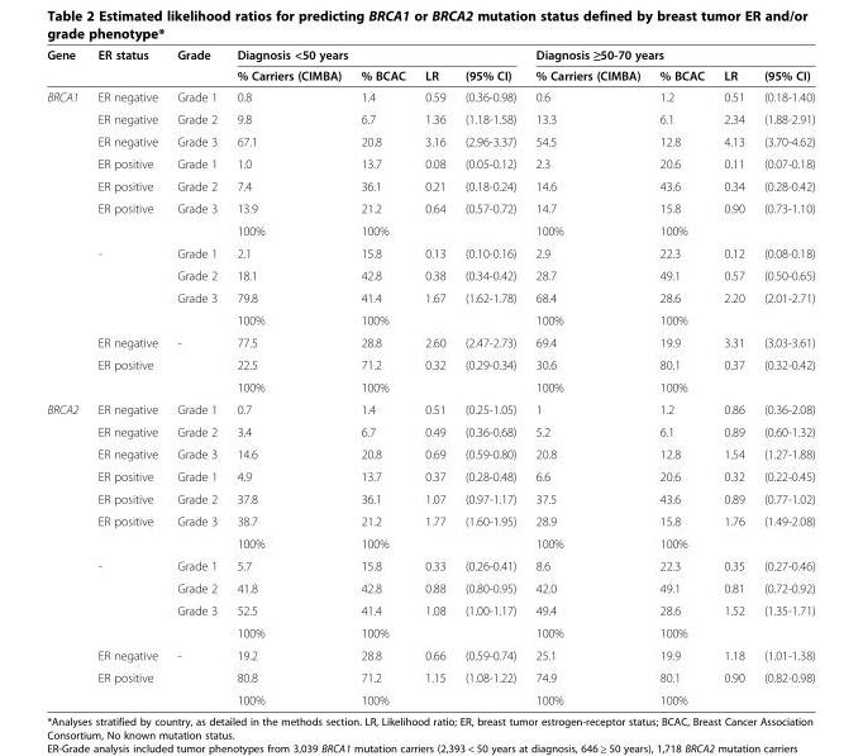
<table><thead><tr><td rowspan="2">Gene</td><td rowspan="2">ER status</td><td rowspan="2">Grade</td><td colspan="4">Diagnosis &lt;50 years</td><td colspan="4">Diagnosis ≥50-70 years</td></tr><tr><td>% Carriers (CIMBA)</td><td>% BCAC</td><td>LR</td><td>(95% CI)</td><td>% Carriers (CIMBA)</td><td>% BCAC</td><td>LR</td><td>(95% CI)</td></tr></thead><tbody><tr><td rowspan="14">BRCA1</td><td>ER negative</td><td>Grade 1</td><td>0.8</td><td>1.4</td><td>0.59</td><td>(0.36-0.98)</td><td>0.6</td><td>1.2</td><td>0.51</td><td>(0.18-1.40)</td></tr><tr><td>ER negative</td><td>Grade 2</td><td>9.8</td><td>6.7</td><td>1.36</td><td>(1.18-1.58)</td><td>13.3</td><td>6.1</td><td>2.34</td><td>(1.88-2.91)</td></tr><tr><td>ER negative</td><td>Grade 3</td><td>67.1</td><td>20.8</td><td>3.16</td><td>(2.96-3.37)</td><td>54.5</td><td>12.8</td><td>4.13</td><td>(3.70-4.62)</td></tr><tr><td>ER positive</td><td>Grade 1</td><td>1.0</td><td>13.7</td><td>0.08</td><td>(0.05-0.12)</td><td>2.3</td><td>20.6</td><td>0.11</td><td>(0.07-0.18)</td></tr><tr><td>ER positive</td><td>Grade 2</td><td>7.4</td><td>36.1</td><td>0.21</td><td>(0.18-0.24)</td><td>14.6</td><td>43.6</td><td>0.34</td><td>(0.28-0.42)</td></tr><tr><td>ER positive</td><td>Grade 3</td><td>13.9</td><td>21.2</td><td>0.64</td><td>(0.57-0.72)</td><td>14.7</td><td>15.8</td><td>0.90</td><td>(0.73-1.10)</td></tr><tr><td></td><td></td><td>100%</td><td>100%</td><td></td><td></td><td>100%</td><td>100%</td><td></td><td></td></tr><tr><td rowspan="3">-</td><td>Grade 1</td><td>2.1</td><td>15.8</td><td>0.13</td><td>(0.10-0.16)</td><td>2.9</td><td>22.3</td><td>0.12</td><td>(0.08-0.18)</td></tr><tr><td>Grade 2</td><td>18.1</td><td>42.8</td><td>0.38</td><td>(0.34-0.42)</td><td>28.7</td><td>49.1</td><td>0.57</td><td>(0.50-0.65)</td></tr><tr><td>Grade 3</td><td>79.8</td><td>41.4</td><td>1.67</td><td>(1.62-1.78)</td><td>68.4</td><td>28.6</td><td>2.20</td><td>(2.01-2.71)</td></tr><tr><td></td><td></td><td>100%</td><td>100%</td><td></td><td></td><td>100%</td><td>100%</td><td></td><td></td></tr><tr><td>ER negative</td><td rowspan="2">-</td><td>77.5</td><td>28.8</td><td>2.60</td><td>(2.47-2.73)</td><td>69.4</td><td>19.9</td><td>3.31</td><td>(3.03-3.61)</td></tr><tr><td>ER positive</td><td>22.5</td><td>71.2</td><td>0.32</td><td>(0.29-0.34)</td><td>30.6</td><td>80.1</td><td>0.37</td><td>(0.32-0.42)</td></tr><tr><td></td><td></td><td>100%</td><td>100%</td><td></td><td></td><td>100%</td><td>100%</td><td></td><td></td></tr><tr><td rowspan="14">BRCA2</td><td>ER negative</td><td>Grade 1</td><td>0.7</td><td>1.4</td><td>0.51</td><td>(0.25-1.05)</td><td>1</td><td>1.2</td><td>0.86</td><td>(0.36-2.08)</td></tr><tr><td>ER negative</td><td>Grade 2</td><td>3.4</td><td>6.7</td><td>0.49</td><td>(0.36-0.68)</td><td>5.2</td><td>6.1</td><td>0.89</td><td>(0.60-1.32)</td></tr><tr><td>ER negative</td><td>Grade 3</td><td>14.6</td><td>20.8</td><td>0.69</td><td>(0.59-0.80)</td><td>20.8</td><td>12.8</td><td>1.54</td><td>(1.27-1.88)</td></tr><tr><td>ER positive</td><td>Grade 1</td><td>4.9</td><td>13.7</td><td>0.37</td><td>(0.28-0.48)</td><td>6.6</td><td>20.6</td><td>0.32</td><td>(0.22-0.45)</td></tr><tr><td>ER positive</td><td>Grade 2</td><td>37.8</td><td>36.1</td><td>1.07</td><td>(0.97-1.17)</td><td>37.5</td><td>43.6</td><td>0.89</td><td>(0.77-1.02)</td></tr><tr><td>ER positive</td><td>Grade 3</td><td>38.7</td><td>21.2</td><td>1.77</td><td>(1.60-1.95)</td><td>28.9</td><td>15.8</td><td>1.76</td><td>(1.49-2.08)</td></tr><tr><td></td><td></td><td>100%</td><td>100%</td><td></td><td></td><td>100%</td><td>100%</td><td></td><td></td></tr><tr><td rowspan="3">-</td><td>Grade 1</td><td>5.7</td><td>15.8</td><td>0.33</td><td>(0.26-0.41)</td><td>8.6</td><td>22.3</td><td>0.35</td><td>(0.27-0.46)</td></tr><tr><td>Grade 2</td><td>41.8</td><td>42.8</td><td>0.88</td><td>(0.80-0.95)</td><td>42.0</td><td>49.1</td><td>0.81</td><td>(0.72-0.92)</td></tr><tr><td>Grade 3</td><td>52.5</td><td>41.4</td><td>1.08</td><td>(1.00-1.17)</td><td>49.4</td><td>28.6</td><td>1.52</td><td>(1.35-1.71)</td></tr><tr><td></td><td></td><td>100%</td><td>100%</td><td></td><td></td><td>100%</td><td>100%</td><td></td><td></td></tr><tr><td>ER negative</td><td rowspan="2">-</td><td>19.2</td><td>28.8</td><td>0.66</td><td>(0.59-0.74)</td><td>25.1</td><td>19.9</td><td>1.18</td><td>(1.01-1.38)</td></tr><tr><td>ER positive</td><td>80.8</td><td>71.2</td><td>1.15</td><td>(1.08-1.22)</td><td>74.9</td><td>80.1</td><td>0.90</td><td>(0.82-0.98)</td></tr><tr><td></td><td></td><td>100%</td><td>100%</td><td></td><td></td><td>100%</td><td>100%</td><td></td><td></td></tr></tbody></table>